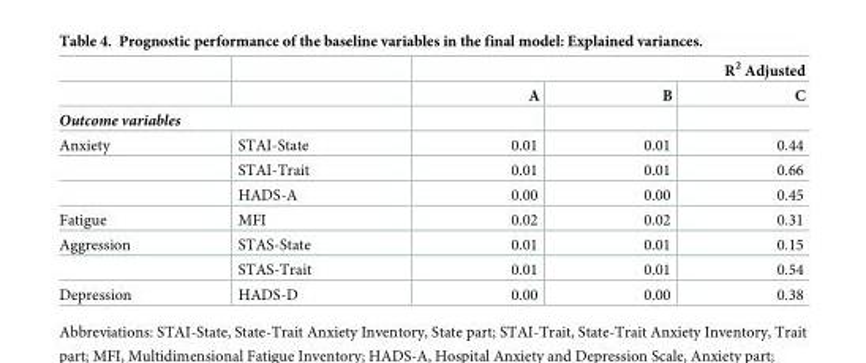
<table><thead><tr><td rowspan="2"></td><td rowspan="2"></td><td colspan="3">R<sup>2</sup> Adjusted</td></tr><tr><td rowspan="2">A</td><td rowspan="2">B</td><td rowspan="2">C</td></tr><tr><td colspan="2">Outcome variables</td></tr></thead><tbody><tr><td rowspan="3">Anxiety</td><td>STAI-State</td><td>0.01</td><td>0.01</td><td>0.44</td></tr><tr><td>STAI-Trait</td><td>0.01</td><td>0.01</td><td>0.66</td></tr><tr><td>HADS-A</td><td>0.00</td><td>0.00</td><td>0.45</td></tr><tr><td>Fatigue</td><td>MFI</td><td>0.02</td><td>0.02</td><td>0.31</td></tr><tr><td rowspan="2">Aggression</td><td>STAS-State</td><td>0.01</td><td>0.01</td><td>0.15</td></tr><tr><td>STAS-Trait</td><td>0.01</td><td>0.01</td><td>0.54</td></tr><tr><td>Depression</td><td>HADS-D</td><td>0.00</td><td>0.00</td><td>0.38</td></tr></tbody></table>